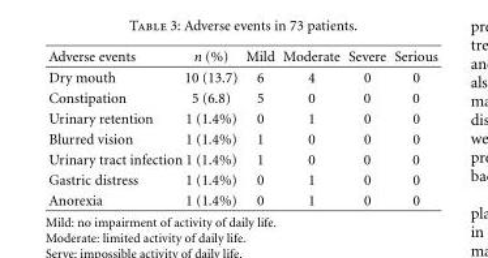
<table><thead><tr><td>Adverse events</td><td>n (%)</td><td>Mild</td><td>Moderate</td><td>Severe</td><td>Serious</td></tr></thead><tbody><tr><td>Dry mouth</td><td>10 (13.7)</td><td>6</td><td>4</td><td>0</td><td>0</td></tr><tr><td>Constipation</td><td>5 (6.8)</td><td>5</td><td>0</td><td>0</td><td>0</td></tr><tr><td>Urinary retention</td><td>1 (1.4%)</td><td>0</td><td>1</td><td>0</td><td>0</td></tr><tr><td>Blurred vision</td><td>1 (1.4%)</td><td>1</td><td>0</td><td>0</td><td>0</td></tr><tr><td>Urinary tract infection</td><td>1 (1.4%)</td><td>1</td><td>0</td><td>0</td><td>0</td></tr><tr><td>Gastric distress</td><td>1 (1.4%)</td><td>0</td><td>1</td><td>0</td><td>0</td></tr><tr><td>Anorexia</td><td>1 (1.4%)</td><td>0</td><td>1</td><td>0</td><td>0</td></tr></tbody></table>